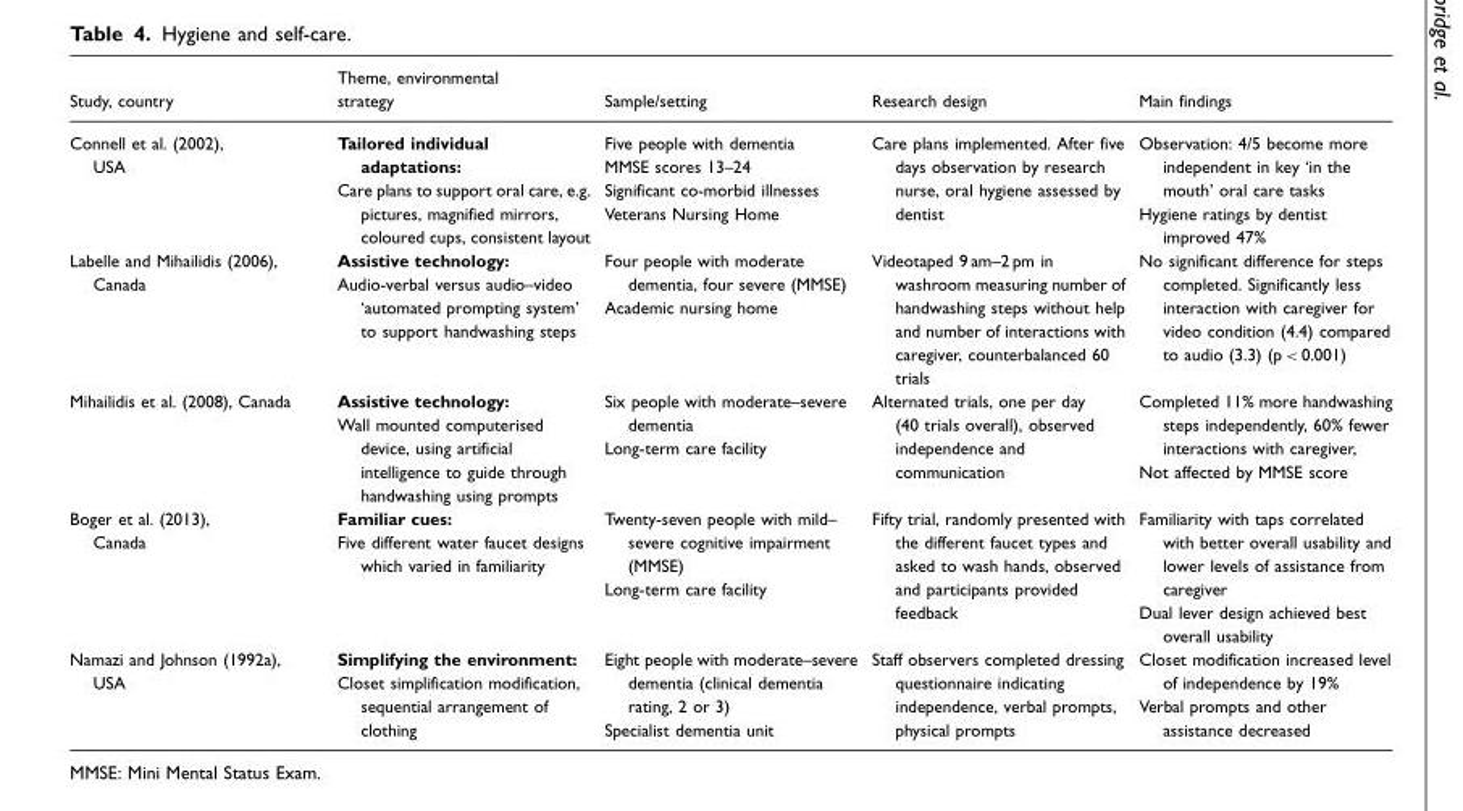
<table><thead><tr><td>Study, country</td><td>Theme, environmental strategy</td><td>Sample/setting</td><td>Research design</td><td>Main findings</td></tr></thead><tbody><tr><td>Connell et al. (2002), USA</td><td>Tailored individual adaptations: Care plans to support oral care, e.g. pictures, magnified mirrors, coloured cups, consistent layout</td><td>Five people with dementia MMSE scores 13–24 Significant co-morbid illnesses Veterans Nursing Home</td><td>Care plans implemented. After five days observation by research nurse, oral hygiene assessed by dentist</td><td>Observation: 4/5 become more independent in key ‘in the mouth’ oral care tasks Hygiene ratings by dentist improved 47%</td></tr><tr><td>Labelle and Mihailidis (2006), Canada</td><td>Assistive technology: Audio-verbal versus audio–video ‘automated prompting system’ to support handwashing steps</td><td>Four people with moderate dementia, four severe (MMSE) Academic nursing home</td><td>Videotaped 9 am–2 pm in washroom measuring number of handwashing steps without help and number of interactions with caregiver, counterbalanced 60 trials</td><td>No significant difference for steps completed. Significantly less interaction with caregiver for video condition (4.4) compared to audio (3.3) (p &lt; 0.001)</td></tr><tr><td>Mihailidis et al. (2008), Canada</td><td>Assistive technology: Wall mounted computerised device, using artificial intelligence to guide through handwashing using prompts</td><td>Six people with moderate–severe dementia Long-term care facility</td><td>Alternated trials, one per day (40 trials overall), observed independence and communication</td><td>Completed 11% more handwashing steps independently, 60% fewer interactions with caregiver, Not affected by MMSE score</td></tr><tr><td>Boger et al. (2013), Canada</td><td>Familiar cues: Five different water faucet designs which varied in familiarity</td><td>Twenty-seven people with mild– severe cognitive impairment (MMSE) Long-term care facility</td><td>Fifty trial, randomly presented with the different faucet types and asked to wash hands, observed and participants provided feedback</td><td>Familiarity with taps correlated with better overall usability and lower levels of assistance from caregiver Dual lever design achieved best overall usability</td></tr><tr><td>Namazi and Johnson (1992a), USA</td><td>Simplifying the environment: Closet simplification modification, sequential arrangement of clothing</td><td>Eight people with moderate–severe dementia (clinical dementia rating, 2 or 3) Specialist dementia unit</td><td>Staff observers completed dressing questionnaire indicating independence, verbal prompts, physical prompts</td><td>Closet modification increased level of independence by 19% Verbal prompts and other assistance decreased</td></tr></tbody></table>